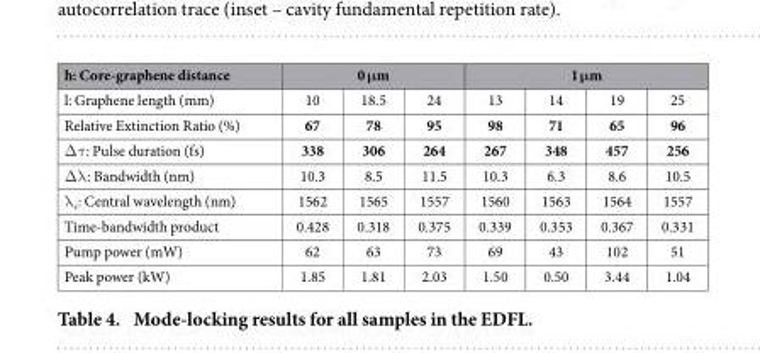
<table><thead><tr><td rowspan="2">h: Core-graphene distance l: Graphene length (mm)</td><td colspan="3">0 μm</td><td colspan="4">1 μm</td></tr><tr><td>10</td><td>18.5</td><td>24</td><td>13</td><td>14</td><td>19</td><td>25</td></tr></thead><tbody><tr><td>Relative Extinction Ratio (%)</td><td>67</td><td>78</td><td>95</td><td>98</td><td>71</td><td>65</td><td>96</td></tr><tr><td>Δ τ : Pulse duration (fs)</td><td>338</td><td>306</td><td>264</td><td>267</td><td>348</td><td>457</td><td>256</td></tr><tr><td>Δ λ : Bandwidth (nm)</td><td>10.3</td><td>8.5</td><td>11.5</td><td>10.3</td><td>6.3</td><td>8.6</td><td>10.5</td></tr><tr><td>λ <sub>c</sub>: Central wavelength (nm)</td><td>1562</td><td>1565</td><td>1557</td><td>1560</td><td>1563</td><td>1564</td><td>1557</td></tr><tr><td>Time-bandwidth product</td><td>0.428</td><td>0.318</td><td>0.375</td><td>0.339</td><td>0.353</td><td>0.367</td><td>0.331</td></tr><tr><td>Pump power (mW)</td><td>62</td><td>63</td><td>73</td><td>69</td><td>43</td><td>102</td><td>51</td></tr><tr><td>Peak power (kW)</td><td>1.85</td><td>1.81</td><td>2.03</td><td>1.50</td><td>0.50</td><td>3.44</td><td>1.04</td></tr></tbody></table>